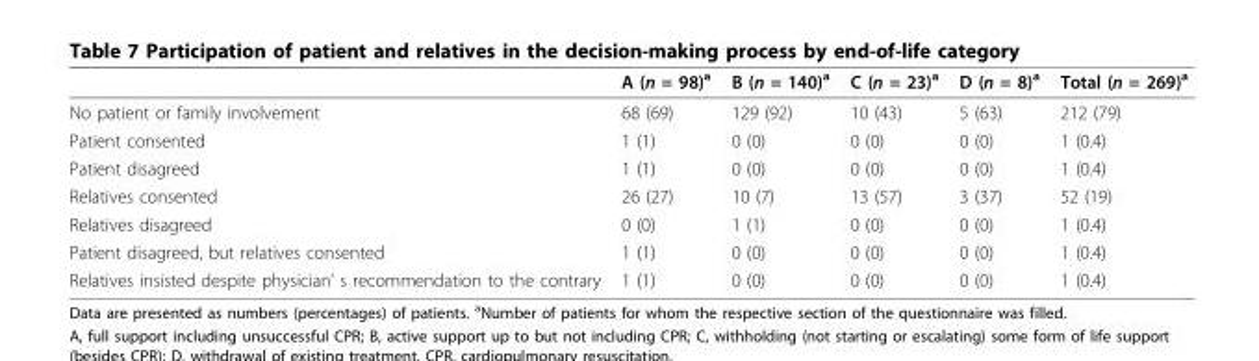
<table><thead><tr><td></td><td>A (n = 98)<sup>a</sup></td><td>B (n = 140)<sup>a</sup></td><td>C (n = 23)<sup>a</sup></td><td>D (n = 8)<sup>a</sup></td><td>Total (n = 269)<sup>a</sup></td></tr></thead><tbody><tr><td>No patient or family involvement</td><td>68 (69)</td><td>129 (92)</td><td>10 (43)</td><td>5 (63)</td><td>212 (79)</td></tr><tr><td>Patient consented</td><td>1 (1)</td><td>0 (0)</td><td>0 (0)</td><td>0 (0)</td><td>1 (0.4)</td></tr><tr><td>Patient disagreed</td><td>1 (1)</td><td>0 (0)</td><td>0 (0)</td><td>0 (0)</td><td>1 (0.4)</td></tr><tr><td>Relatives consented</td><td>26 (27)</td><td>10 (7)</td><td>13 (57)</td><td>3 (37)</td><td>52 (19)</td></tr><tr><td>Relatives disagreed</td><td>0 (0)</td><td>1 (1)</td><td>0 (0)</td><td>0 (0)</td><td>1 (0.4)</td></tr><tr><td>Patient disagreed, but relatives consented</td><td>1 (1)</td><td>0 (0)</td><td>0 (0)</td><td>0 (0)</td><td>1 (0.4)</td></tr><tr><td>Relatives insisted despite physician’ s recommendation to the contrary</td><td>1 (1)</td><td>0 (0)</td><td>0 (0)</td><td>0 (0)</td><td>1 (0.4)</td></tr></tbody></table>